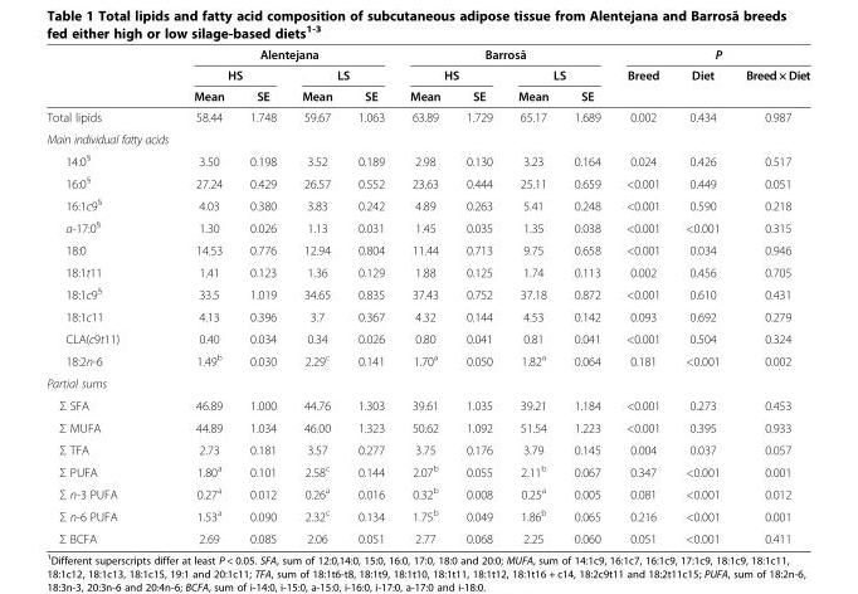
<table><thead><tr><td rowspan="3"></td><td colspan="4">Alentejana</td><td colspan="4">Barrosã</td><td colspan="3">P</td></tr><tr><td colspan="2">HS</td><td colspan="2">LS</td><td colspan="2">HS</td><td colspan="2">LS</td><td rowspan="2">Breed</td><td rowspan="2">Diet</td><td rowspan="2">Breed × Diet</td></tr><tr><td>Mean</td><td>SE</td><td>Mean</td><td>SE</td><td>Mean</td><td>SE</td><td>Mean</td><td>SE</td></tr></thead><tbody><tr><td>Total lipids</td><td>58.44</td><td>1.748</td><td>59.67</td><td>1.063</td><td>63.89</td><td>1.729</td><td>65.17</td><td>1.689</td><td>0.002</td><td>0.434</td><td>0.987</td></tr><tr><td colspan="12">Main individual fatty acids</td></tr><tr><td>14:0<sup>§</sup></td><td>3.50</td><td>0.198</td><td>3.52</td><td>0.189</td><td>2.98</td><td>0.130</td><td>3.23</td><td>0.164</td><td>0.024</td><td>0.426</td><td>0.517</td></tr><tr><td>16:0<sup>§</sup></td><td>27.24</td><td>0.429</td><td>26.57</td><td>0.552</td><td>23.63</td><td>0.444</td><td>25.11</td><td>0.659</td><td>&lt;0.001</td><td>0.449</td><td>0.051</td></tr><tr><td>16:1c9<sup>§</sup></td><td>4.03</td><td>0.380</td><td>3.83</td><td>0.242</td><td>4.89</td><td>0.263</td><td>5.41</td><td>0.248</td><td>&lt;0.001</td><td>0.590</td><td>0.218</td></tr><tr><td>a-17:0<sup>§</sup></td><td>1.30</td><td>0.026</td><td>1.13</td><td>0.031</td><td>1.45</td><td>0.035</td><td>1.35</td><td>0.038</td><td>&lt;0.001</td><td>&lt;0.001</td><td>0.315</td></tr><tr><td>18:0</td><td>14.53</td><td>0.776</td><td>12.94</td><td>0.804</td><td>11.44</td><td>0.713</td><td>9.75</td><td>0.658</td><td>&lt;0.001</td><td>0.034</td><td>0.946</td></tr><tr><td>18:1t11</td><td>1.41</td><td>0.123</td><td>1.36</td><td>0.129</td><td>1.88</td><td>0.125</td><td>1.74</td><td>0.113</td><td>0.002</td><td>0.456</td><td>0.705</td></tr><tr><td>18:1c9<sup>§</sup></td><td>33.5</td><td>1.019</td><td>34.65</td><td>0.835</td><td>37.43</td><td>0.752</td><td>37.18</td><td>0.872</td><td>&lt;0.001</td><td>0.610</td><td>0.431</td></tr><tr><td>18:1c11</td><td>4.13</td><td>0.396</td><td>3.7</td><td>0.367</td><td>4.32</td><td>0.144</td><td>4.53</td><td>0.142</td><td>0.093</td><td>0.692</td><td>0.279</td></tr><tr><td>CLA(c9t11)</td><td>0.40</td><td>0.034</td><td>0.34</td><td>0.026</td><td>0.80</td><td>0.041</td><td>0.81</td><td>0.041</td><td>&lt;0.001</td><td>0.504</td><td>0.324</td></tr><tr><td>18:2n-6</td><td>1.49<sup>b</sup></td><td>0.030</td><td>2.29<sup>c</sup></td><td>0.141</td><td>1.70<sup>a</sup></td><td>0.050</td><td>1.82<sup>a</sup></td><td>0.064</td><td>0.181</td><td>&lt;0.001</td><td>0.002</td></tr><tr><td colspan="12">Partial sums</td></tr><tr><td>Σ SFA</td><td>46.89</td><td>1.000</td><td>44.76</td><td>1.303</td><td>39.61</td><td>1.035</td><td>39.21</td><td>1.184</td><td>&lt;0.001</td><td>0.273</td><td>0.453</td></tr><tr><td>Σ MUFA</td><td>44.89</td><td>1.034</td><td>46.00</td><td>1.323</td><td>50.62</td><td>1.092</td><td>51.54</td><td>1.223</td><td>&lt;0.001</td><td>0.395</td><td>0.933</td></tr><tr><td>Σ TFA</td><td>2.73</td><td>0.181</td><td>3.57</td><td>0.277</td><td>3.75</td><td>0.176</td><td>3.79</td><td>0.145</td><td>0.004</td><td>0.037</td><td>0.057</td></tr><tr><td>Σ PUFA</td><td>1.80<sup>a</sup></td><td>0.101</td><td>2.58<sup>c</sup></td><td>0.144</td><td>2.07<sup>b</sup></td><td>0.055</td><td>2.11<sup>b</sup></td><td>0.067</td><td>0.347</td><td>&lt;0.001</td><td>0.001</td></tr><tr><td>Σ n-3 PUFA</td><td>0.27<sup>a</sup></td><td>0.012</td><td>0.26<sup>a</sup></td><td>0.016</td><td>0.32<sup>b</sup></td><td>0.008</td><td>0.25<sup>a</sup></td><td>0.005</td><td>0.081</td><td>&lt;0.001</td><td>0.012</td></tr><tr><td>Σ n-6 PUFA</td><td>1.53<sup>a</sup></td><td>0.090</td><td>2.32<sup>c</sup></td><td>0.134</td><td>1.75<sup>b</sup></td><td>0.049</td><td>1.86<sup>b</sup></td><td>0.065</td><td>0.216</td><td>&lt;0.001</td><td>0.001</td></tr><tr><td>Σ BCFA</td><td>2.69</td><td>0.085</td><td>2.06</td><td>0.051</td><td>2.77</td><td>0.068</td><td>2.25</td><td>0.060</td><td>0.051</td><td>&lt;0.001</td><td>0.411</td></tr></tbody></table>